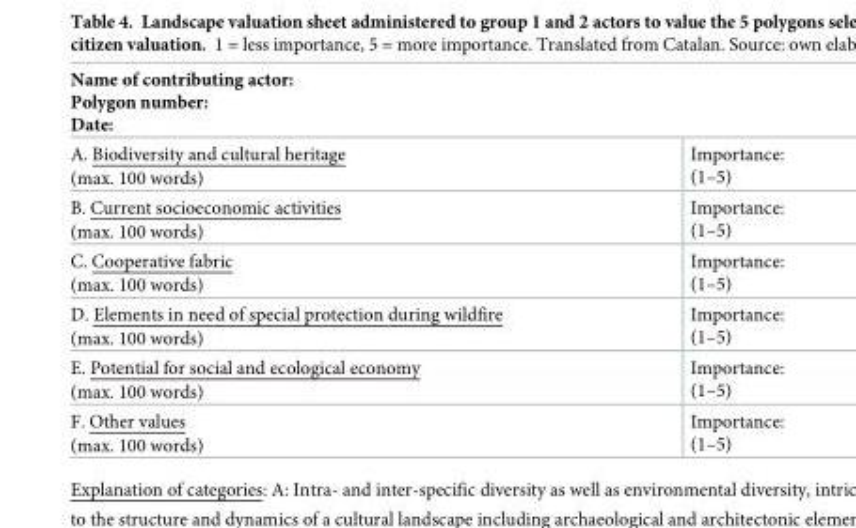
<table><thead><tr><td colspan="2">Name of contributing actor: Polygon number: Date:</td></tr><tr><td>A. Biodiversity and cultural heritage (max. 100 words)</td><td>Importance: (1–5)</td></tr></thead><tbody><tr><td>B. Current socioeconomic activities (max. 100 words)</td><td>Importance: (1–5)</td></tr><tr><td>C. Cooperative fabric (max. 100 words)</td><td>Importance: (1–5)</td></tr><tr><td>D. Elements in need of special protection during wildfire (max. 100 words)</td><td>Importance: (1–5)</td></tr><tr><td>E. Potential for social and ecological economy (max. 100 words)</td><td>Importance: (1–5)</td></tr><tr><td>F. Other values (max. 100 words)</td><td>Importance: (1–5)</td></tr></tbody></table>